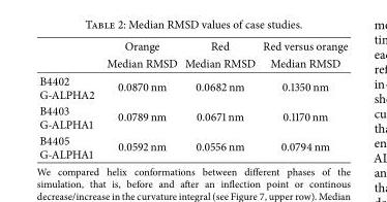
<table><thead><tr><td rowspan="2"></td><td rowspan="2">Orange Median RMSD</td><td rowspan="2">Red Median RMSD</td><td rowspan="2">Red versus orange Median RMSD</td></tr><tr></tr></thead><tbody><tr><td>B4402 G-ALPHA2</td><td>0.0870 nm</td><td>0.0682 nm</td><td>0.1350 nm</td></tr><tr><td>B4403 G-ALPHA1</td><td>0.0789 nm</td><td>0.0671 nm</td><td>0.1170 nm</td></tr><tr><td>B4405 G-ALPHA1</td><td>0.0592 nm</td><td>0.0556 nm</td><td>0.0794 nm</td></tr></tbody></table>